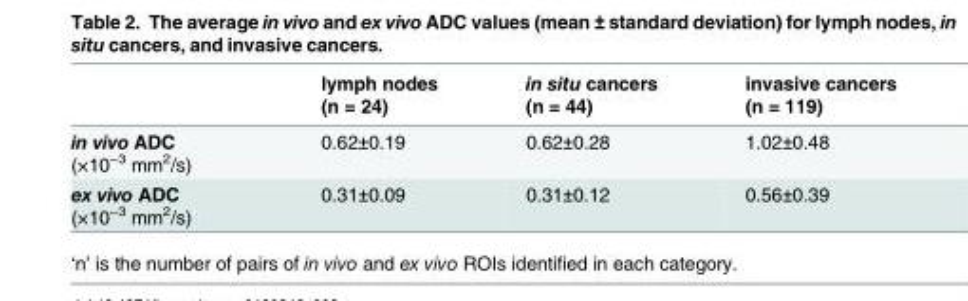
<table><thead><tr><td></td><td>lymph nodes (n = 24)</td><td>in situ cancers (n = 44)</td><td>invasive cancers (n = 119)</td></tr></thead><tbody><tr><td>in vivo ADC (×10<sup>−3</sup> mm<sup>2</sup>/s)</td><td>0.62±0.19</td><td>0.62±0.28</td><td>1.02±0.48</td></tr><tr><td>ex vivo ADC (×10<sup>−3</sup> mm<sup>2</sup>/s)</td><td>0.31±0.09</td><td>0.31±0.12</td><td>0.56±0.39</td></tr></tbody></table>